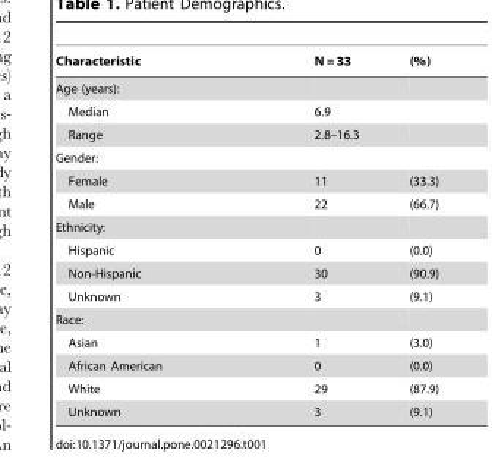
<table><thead><tr><td>Characteristic</td><td>N = 33</td><td>(%)</td></tr></thead><tbody><tr><td colspan="3">Age (years):</td></tr><tr><td>Median</td><td>6.9</td><td></td></tr><tr><td>Range</td><td>2.8–16.3</td><td></td></tr><tr><td colspan="3">Gender:</td></tr><tr><td>Female</td><td>11</td><td>(33.3)</td></tr><tr><td>Male</td><td>22</td><td>(66.7)</td></tr><tr><td colspan="3">Ethnicity:</td></tr><tr><td>Hispanic</td><td>0</td><td>(0.0)</td></tr><tr><td>Non-Hispanic</td><td>30</td><td>(90.9)</td></tr><tr><td>Unknown</td><td>3</td><td>(9.1)</td></tr><tr><td colspan="3">Race:</td></tr><tr><td>Asian</td><td>1</td><td>(3.0)</td></tr><tr><td>African American</td><td>0</td><td>(0.0)</td></tr><tr><td>White</td><td>29</td><td>(87.9)</td></tr><tr><td>Unknown</td><td>3</td><td>(9.1)</td></tr></tbody></table>